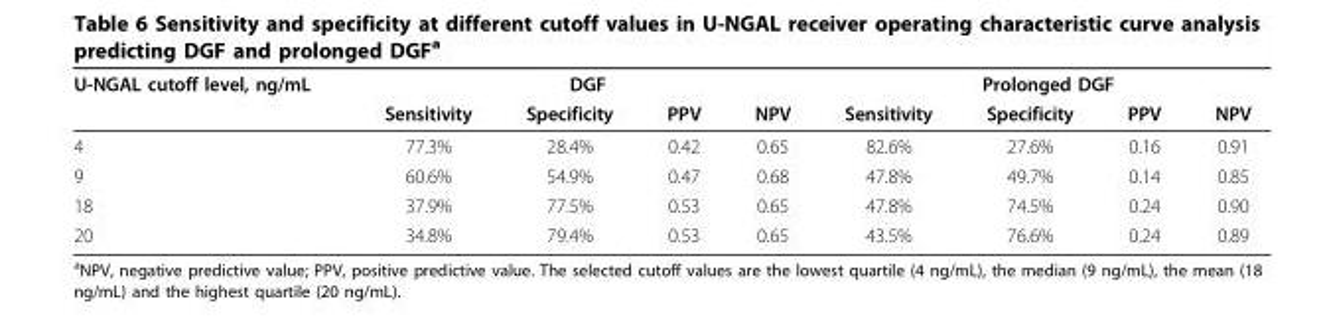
<table><thead><tr><td rowspan="2">U-NGAL cutoff level, ng/mL</td><td colspan="4">DGF</td><td colspan="4">Prolonged DGF</td></tr><tr><td>Sensitivity</td><td>Specificity</td><td>PPV</td><td>NPV</td><td>Sensitivity</td><td>Specificity</td><td>PPV</td><td>NPV</td></tr></thead><tbody><tr><td>4</td><td>77.3%</td><td>28.4%</td><td>0.42</td><td>0.65</td><td>82.6%</td><td>27.6%</td><td>0.16</td><td>0.91</td></tr><tr><td>9</td><td>60.6%</td><td>54.9%</td><td>0.47</td><td>0.68</td><td>47.8%</td><td>49.7%</td><td>0.14</td><td>0.85</td></tr><tr><td>18</td><td>37.9%</td><td>77.5%</td><td>0.53</td><td>0.65</td><td>47.8%</td><td>74.5%</td><td>0.24</td><td>0.90</td></tr><tr><td>20</td><td>34.8%</td><td>79.4%</td><td>0.53</td><td>0.65</td><td>43.5%</td><td>76.6%</td><td>0.24</td><td>0.89</td></tr></tbody></table>